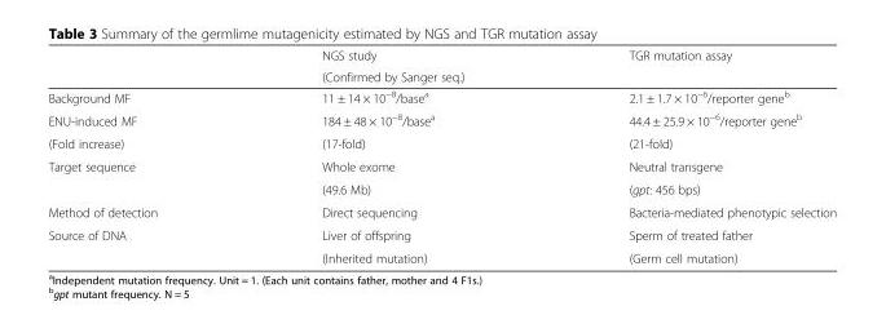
<table><thead><tr><td rowspan="2"></td><td rowspan="2">NGS study (Confirmed by Sanger seq.)</td><td rowspan="2">TGR mutation assay</td></tr><tr></tr></thead><tbody><tr><td>Background MF</td><td>11 ± 14 × 10<sup>−8</sup>/base<sup>a</sup></td><td>2.1 ± 1.7 × 10<sup>−6</sup>/reporter gene<sup>b</sup></td></tr><tr><td>ENU-induced MF</td><td>184 ± 48 × 10<sup>−8</sup>/base<sup>a</sup></td><td>44.4 ± 25.9 × 10<sup>−6</sup>/reporter gene<sup>b</sup></td></tr><tr><td>(Fold increase)</td><td>(17-fold)</td><td>(21-fold)</td></tr><tr><td rowspan="2">Target sequence</td><td>Whole exome</td><td>Neutral transgene</td></tr><tr><td>(49.6 Mb)</td><td>(gpt: 456 bps)</td></tr><tr><td>Method of detection</td><td>Direct sequencing</td><td>Bacteria-mediated phenotypic selection</td></tr><tr><td rowspan="2">Source of DNA</td><td>Liver of offspring</td><td>Sperm of treated father</td></tr><tr><td>(Inherited mutation)</td><td>(Germ cell mutation)</td></tr></tbody></table>